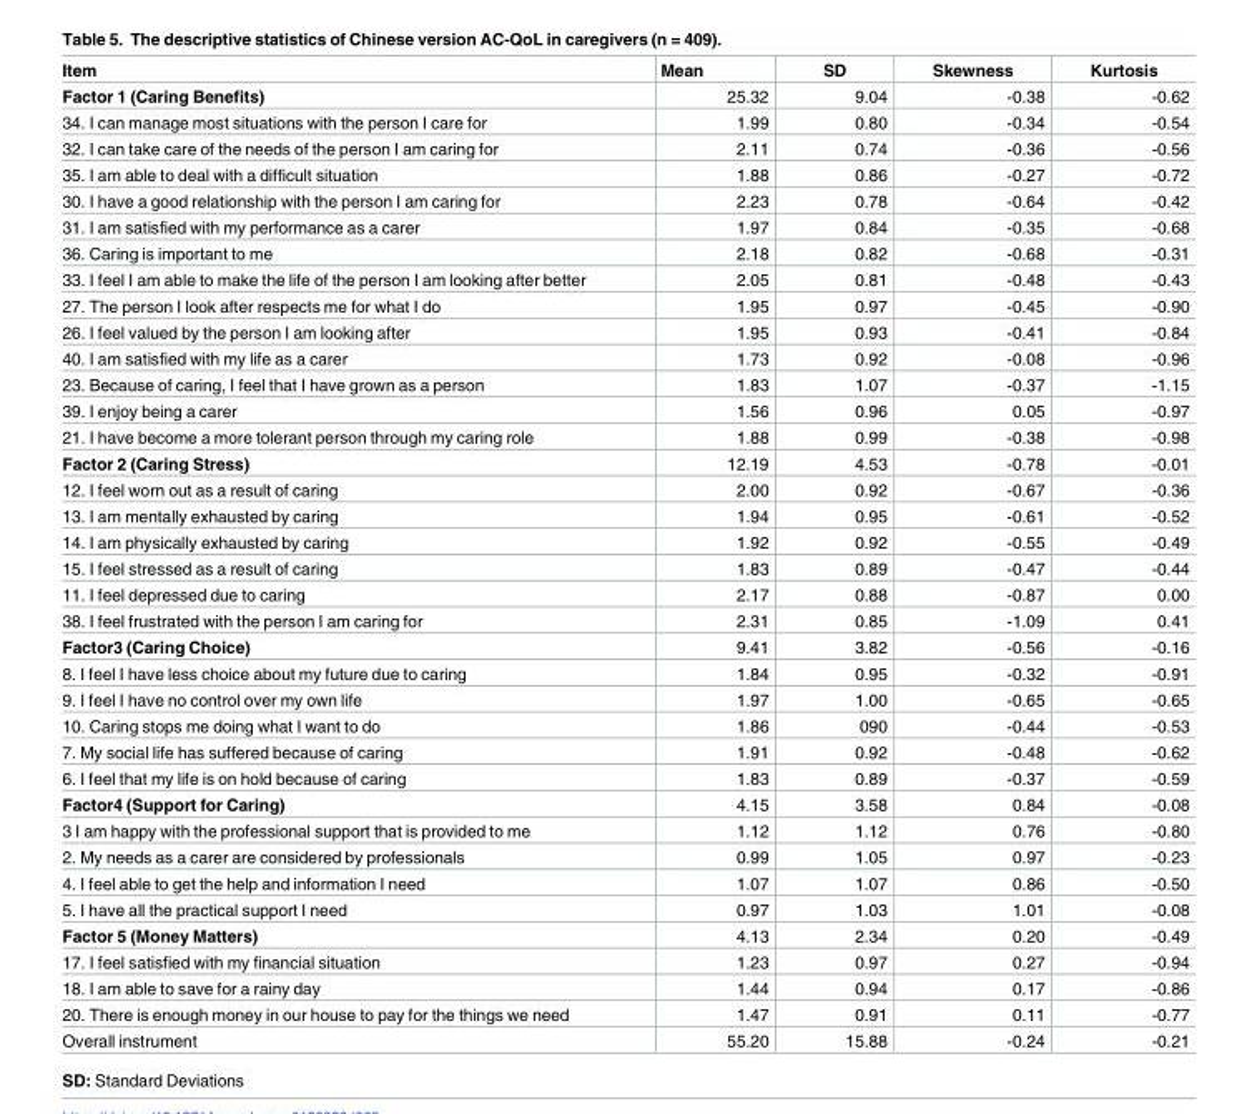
<table><thead><tr><td>Item</td><td>Mean</td><td>SD</td><td>Skewness</td><td>Kurtosis</td></tr></thead><tbody><tr><td>Factor 1 (Caring Benefits)</td><td>25.32</td><td>9.04</td><td>-0.38</td><td>-0.62</td></tr><tr><td>34. I can manage most situations with the person I care for</td><td>1.99</td><td>0.80</td><td>-0.34</td><td>-0.54</td></tr><tr><td>32. I can take care of the needs of the person I am caring for</td><td>2.11</td><td>0.74</td><td>-0.36</td><td>-0.56</td></tr><tr><td>35. I am able to deal with a difficult situation</td><td>1.88</td><td>0.86</td><td>-0.27</td><td>-0.72</td></tr><tr><td>30. I have a good relationship with the person I am caring for</td><td>2.23</td><td>0.78</td><td>-0.64</td><td>-0.42</td></tr><tr><td>31. I am satisfied with my performance as a carer</td><td>1.97</td><td>0.84</td><td>-0.35</td><td>-0.68</td></tr><tr><td>36. Caring is important to me</td><td>2.18</td><td>0.82</td><td>-0.68</td><td>-0.31</td></tr><tr><td>33. I feel I am able to make the life of the person I am looking after better</td><td>2.05</td><td>0.81</td><td>-0.48</td><td>-0.43</td></tr><tr><td>27. The person I look after respects me for what I do</td><td>1.95</td><td>0.97</td><td>-0.45</td><td>-0.90</td></tr><tr><td>26. I feel valued by the person I am looking after</td><td>1.95</td><td>0.93</td><td>-0.41</td><td>-0.84</td></tr><tr><td>40. I am satisfied with my life as a carer</td><td>1.73</td><td>0.92</td><td>-0.08</td><td>-0.96</td></tr><tr><td>23. Because of caring, I feel that I have grown as a person</td><td>1.83</td><td>1.07</td><td>-0.37</td><td>-1.15</td></tr><tr><td>39. I enjoy being a carer</td><td>1.56</td><td>0.96</td><td>0.05</td><td>-0.97</td></tr><tr><td>21. I have become a more tolerant person through my caring role</td><td>1.88</td><td>0.99</td><td>-0.38</td><td>-0.98</td></tr><tr><td>Factor 2 (Caring Stress)</td><td>12.19</td><td>4.53</td><td>-0.78</td><td>-0.01</td></tr><tr><td>12. I feel worn out as a result of caring</td><td>2.00</td><td>0.92</td><td>-0.67</td><td>-0.36</td></tr><tr><td>13. I am mentally exhausted by caring</td><td>1.94</td><td>0.95</td><td>-0.61</td><td>-0.52</td></tr><tr><td>14. I am physically exhausted by caring</td><td>1.92</td><td>0.92</td><td>-0.55</td><td>-0.49</td></tr><tr><td>15. I feel stressed as a result of caring</td><td>1.83</td><td>0.89</td><td>-0.47</td><td>-0.44</td></tr><tr><td>11. I feel depressed due to caring</td><td>2.17</td><td>0.88</td><td>-0.87</td><td>0.00</td></tr><tr><td>38. I feel frustrated with the person I am caring for</td><td>2.31</td><td>0.85</td><td>-1.09</td><td>0.41</td></tr><tr><td>Factor3 (Caring Choice)</td><td>9.41</td><td>3.82</td><td>-0.56</td><td>-0.16</td></tr><tr><td>8. I feel I have less choice about my future due to caring</td><td>1.84</td><td>0.95</td><td>-0.32</td><td>-0.91</td></tr><tr><td>9. I feel I have no control over my own life</td><td>1.97</td><td>1.00</td><td>-0.65</td><td>-0.65</td></tr><tr><td>10. Caring stops me doing what I want to do</td><td>1.86</td><td>090</td><td>-0.44</td><td>-0.53</td></tr><tr><td>7. My social life has suffered because of caring</td><td>1.91</td><td>0.92</td><td>-0.48</td><td>-0.62</td></tr><tr><td>6. I feel that my life is on hold because of caring</td><td>1.83</td><td>0.89</td><td>-0.37</td><td>-0.59</td></tr><tr><td>Factor4 (Support for Caring)</td><td>4.15</td><td>3.58</td><td>0.84</td><td>-0.08</td></tr><tr><td>3 I am happy with the professional support that is provided to me</td><td>1.12</td><td>1.12</td><td>0.76</td><td>-0.80</td></tr><tr><td>2. My needs as a carer are considered by professionals</td><td>0.99</td><td>1.05</td><td>0.97</td><td>-0.23</td></tr><tr><td>4. I feel able to get the help and information I need</td><td>1.07</td><td>1.07</td><td>0.86</td><td>-0.50</td></tr><tr><td>5. I have all the practical support I need</td><td>0.97</td><td>1.03</td><td>1.01</td><td>-0.08</td></tr><tr><td>Factor 5 (Money Matters)</td><td>4.13</td><td>2.34</td><td>0.20</td><td>-0.49</td></tr><tr><td>17. I feel satisfied with my financial situation</td><td>1.23</td><td>0.97</td><td>0.27</td><td>-0.94</td></tr><tr><td>18. I am able to save for a rainy day</td><td>1.44</td><td>0.94</td><td>0.17</td><td>-0.86</td></tr><tr><td>20. There is enough money in our house to pay for the things we need</td><td>1.47</td><td>0.91</td><td>0.11</td><td>-0.77</td></tr><tr><td>Overall instrument</td><td>55.20</td><td>15.88</td><td>-0.24</td><td>-0.21</td></tr></tbody></table>